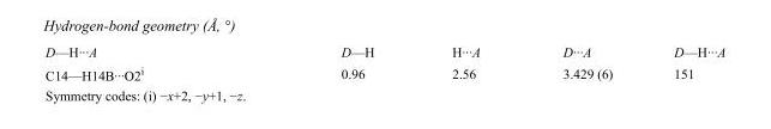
<table><tbody><tr><td>D—H···A</td><td>D—H</td><td>H···A</td><td>D···A</td><td>D—H···A</td></tr><tr><td>C14—H14B···O2<sup>i</sup></td><td>0.96</td><td>2.56</td><td>3.429 (6)</td><td>151</td></tr></tbody></table>